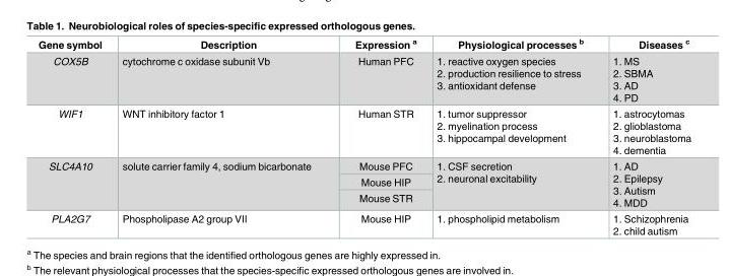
<table><thead><tr><td>Gene symbol</td><td>Description</td><td>Expression <sup>a</sup></td><td>Physiological processes <sup>b</sup></td><td>Diseases <sup>c</sup></td></tr></thead><tbody><tr><td>COX5B</td><td>cytochrome c oxidase subunit Vb</td><td>Human PFC</td><td>1. reactive oxygen species 2. production resilience to stress 3. antioxidant defense</td><td>1. MS 2. SBMA 3. AD 4. PD</td></tr><tr><td>WIF1</td><td>WNT inhibitory factor 1</td><td>Human STR</td><td>1. tumor suppressor 2. myelination process 3. hippocampal development</td><td>1. astrocytomas 2. glioblastoma 3. neuroblastoma 4. dementia</td></tr><tr><td rowspan="3">SLC4A10</td><td rowspan="3">solute carrier family 4, sodium bicarbonate</td><td>Mouse PFC</td><td rowspan="3">1. CSF secretion 2. neuronal excitability</td><td rowspan="3">1. AD 2. Epilepsy 3. Autism 4. MDD</td></tr><tr><td>Mouse HIP</td></tr><tr><td>Mouse STR</td></tr><tr><td>PLA2G7</td><td>Phospholipase A2 group VII</td><td>Mouse HIP</td><td>1. phospholipid metabolism</td><td>1. Schizophrenia 2. child autism</td></tr></tbody></table>